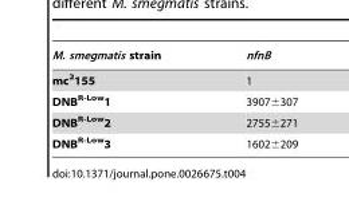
<table><thead><tr><td>M. smegmatis strain</td><td>nfnB</td></tr></thead><tbody><tr><td>mc<sup>2</sup>155</td><td>1</td></tr><tr><td>DNB<sup>R-Low</sup>1</td><td>3907±307</td></tr><tr><td>DNB<sup>R-Low</sup>2</td><td>2755±271</td></tr><tr><td>DNB<sup>R-Low</sup>3</td><td>1602±209</td></tr></tbody></table>